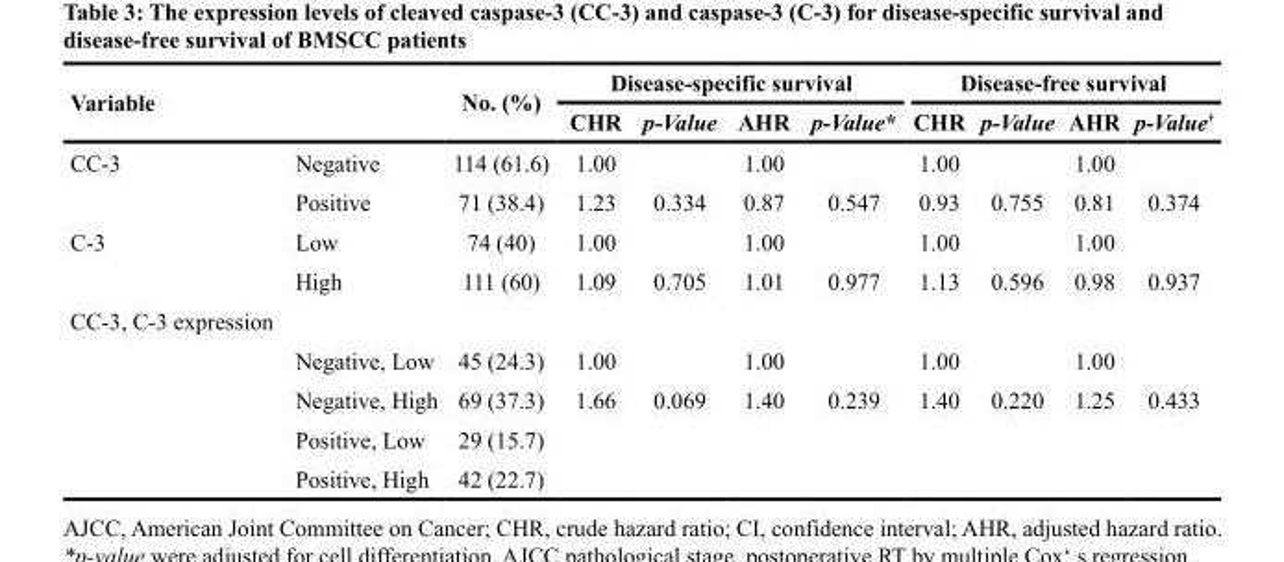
<table><thead><tr><td rowspan="2">Variable</td><td rowspan="2"></td><td rowspan="2">No. (%)</td><td colspan="4">Disease-specific survival</td><td colspan="4">Disease-free survival</td></tr><tr><td>CHR</td><td>p-Value</td><td>AHR</td><td>p-Value*</td><td>CHR</td><td>p-Value</td><td>AHR</td><td>p-Value<sup>†</sup></td></tr></thead><tbody><tr><td rowspan="2">CC-3</td><td>Negative</td><td>114 (61.6)</td><td>1.00</td><td></td><td>1.00</td><td></td><td>1.00</td><td></td><td>1.00</td><td></td></tr><tr><td>Positive</td><td>71 (38.4)</td><td>1.23</td><td>0.334</td><td>0.87</td><td>0.547</td><td>0.93</td><td>0.755</td><td>0.81</td><td>0.374</td></tr><tr><td rowspan="2">C-3</td><td>Low</td><td>74 (40)</td><td>1.00</td><td></td><td>1.00</td><td></td><td>1.00</td><td></td><td>1.00</td><td></td></tr><tr><td>High</td><td>111 (60)</td><td>1.09</td><td>0.705</td><td>1.01</td><td>0.977</td><td>1.13</td><td>0.596</td><td>0.98</td><td>0.937</td></tr><tr><td colspan="11">CC-3, C-3 expression</td></tr><tr><td></td><td>Negative, Low</td><td>45 (24.3)</td><td>1.00</td><td></td><td>1.00</td><td></td><td>1.00</td><td></td><td>1.00</td><td></td></tr><tr><td></td><td>Negative, High</td><td>69 (37.3)</td><td>1.66</td><td>0.069</td><td>1.40</td><td>0.239</td><td>1.40</td><td>0.220</td><td>1.25</td><td>0.433</td></tr><tr><td></td><td>Positive, Low</td><td>29 (15.7)</td><td></td><td></td><td></td><td></td><td></td><td></td><td></td><td></td></tr><tr><td></td><td>Positive, High</td><td>42 (22.7)</td><td></td><td></td><td></td><td></td><td></td><td></td><td></td><td></td></tr></tbody></table>